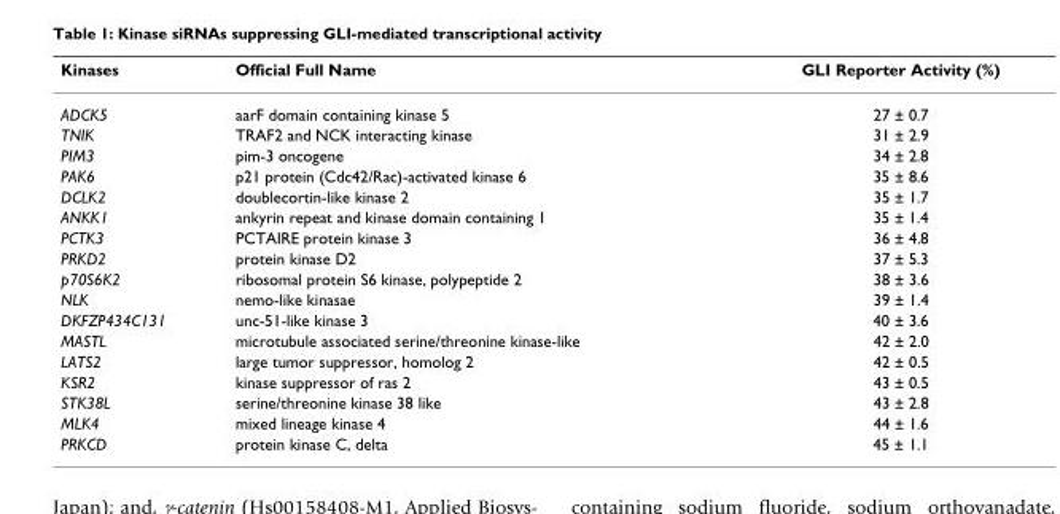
<table><thead><tr><td>Kinases</td><td>Official Full Name</td><td>GLI Reporter Activity (%)</td></tr></thead><tbody><tr><td>ADCK5</td><td>aarF domain containing kinase 5</td><td>27 ± 0.7</td></tr><tr><td>TNIK</td><td>TRAF2 and NCK interacting kinase</td><td>31 ± 2.9</td></tr><tr><td>PIM3</td><td>pim-3 oncogene</td><td>34 ± 2.8</td></tr><tr><td>PAK6</td><td>p21 protein (Cdc42/Rac)-activated kinase 6</td><td>35 ± 8.6</td></tr><tr><td>DCLK2</td><td>doublecortin-like kinase 2</td><td>35 ± 1.7</td></tr><tr><td>ANKK1</td><td>ankyrin repeat and kinase domain containing 1</td><td>35 ± 1.4</td></tr><tr><td>PCTK3</td><td>PCTAIRE protein kinase 3</td><td>36 ± 4.8</td></tr><tr><td>PRKD2</td><td>protein kinase D2</td><td>37 ± 5.3</td></tr><tr><td>p70S6K2</td><td>ribosomal protein S6 kinase, polypeptide 2</td><td>38 ± 3.6</td></tr><tr><td>NLK</td><td>nemo-like kinasae</td><td>39 ± 1.4</td></tr><tr><td>DKFZP434C131</td><td>unc-51-like kinase 3</td><td>40 ± 3.6</td></tr><tr><td>MASTL</td><td>microtubule associated serine/threonine kinase-like</td><td>42 ± 2.0</td></tr><tr><td>LATS2</td><td>large tumor suppressor, homolog 2</td><td>42 ± 0.5</td></tr><tr><td>KSR2</td><td>kinase suppressor of ras 2</td><td>43 ± 0.5</td></tr><tr><td>STK38L</td><td>serine/threonine kinase 38 like</td><td>43 ± 2.8</td></tr><tr><td>MLK4</td><td>mixed lineage kinase 4</td><td>44 ± 1.6</td></tr><tr><td>PRKCD</td><td>protein kinase C, delta</td><td>45 ± 1.1</td></tr></tbody></table>